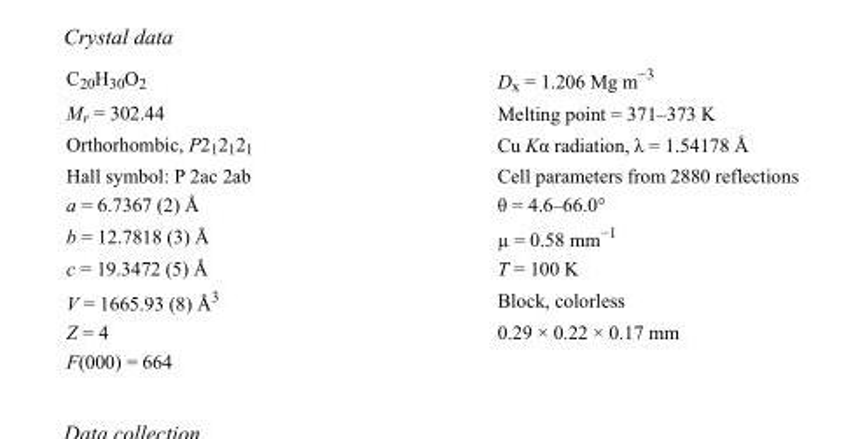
<table><tbody><tr><td>C<sub>20</sub>H<sub>30</sub>O<sub>2</sub></td><td>D<sub>x</sub> = 1.206 Mg m<sup>−3</sup></td></tr><tr><td>M<sub>r</sub> = 302.44</td><td>Melting point = 371–373 K</td></tr><tr><td>Orthorhombic, P2<sub>1</sub>2<sub>1</sub>2<sub>1</sub></td><td>Cu Kα radiation, λ = 1.54178 Å</td></tr><tr><td>Hall symbol: P 2ac 2ab</td><td>Cell parameters from 2880 reflections</td></tr><tr><td>a = 6.7367 (2) Å</td><td>θ = 4.6–66.0°</td></tr><tr><td>b = 12.7818 (3) Å</td><td>µ = 0.58 mm<sup>−1</sup></td></tr><tr><td>c = 19.3472 (5) Å</td><td>T = 100 K</td></tr><tr><td>V = 1665.93 (8) Å<sup>3</sup></td><td>Block, colorless</td></tr><tr><td>Z = 4</td><td>0.29 × 0.22 × 0.17 mm</td></tr><tr><td>F(000) = 664</td><td></td></tr></tbody></table>